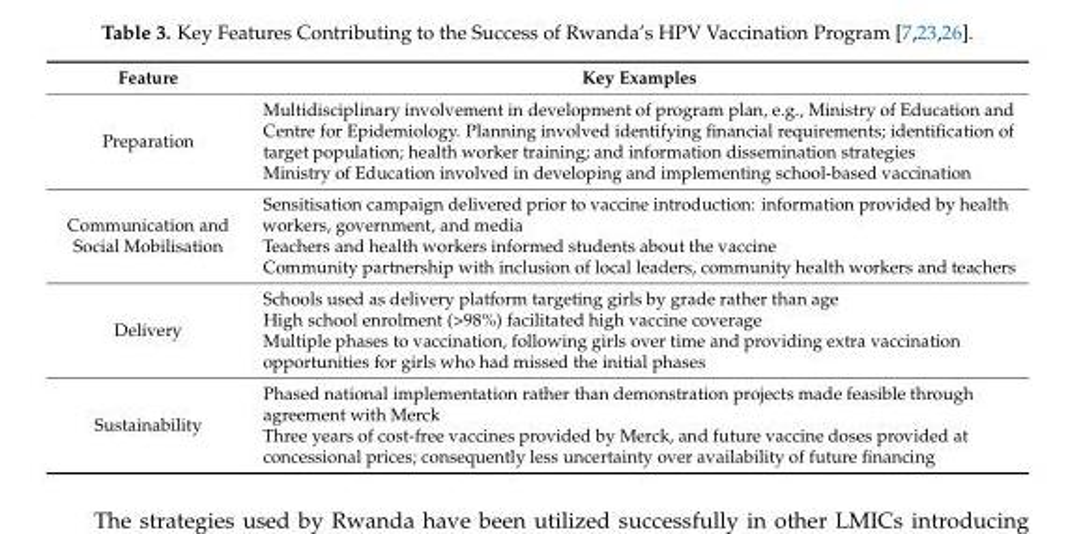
<table><thead><tr><td>Feature</td><td>Key Examples</td></tr></thead><tbody><tr><td>Preparation</td><td>Multidisciplinary involvement in development of program plan, e.g., Ministry of Education and Centre for Epidemiology. Planning involved identifying financial requirements; identification of target population; health worker training; and information dissemination strategies Ministry of Education involved in developing and implementing school-based vaccination</td></tr><tr><td>Communication and Social Mobilisation</td><td>Sensitisation campaign delivered prior to vaccine introduction: information provided by health workers, government, and media Teachers and health workers informed students about the vaccine Community partnership with inclusion of local leaders, community health workers and teachers</td></tr><tr><td>Delivery</td><td>Schools used as delivery platform targeting girls by grade rather than age High school enrolment (&gt;98%) facilitated high vaccine coverage Multiple phases to vaccination, following girls over time and providing extra vaccination opportunities for girls who had missed the initial phases</td></tr><tr><td>Sustainability</td><td>Phased national implementation rather than demonstration projects made feasible through agreement with Merck Three years of cost-free vaccines provided by Merck, and future vaccine doses provided at concessional prices; consequently less uncertainty over availability of future financing</td></tr></tbody></table>